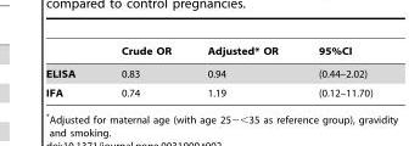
<table><thead><tr><td></td><td>Crude OR</td><td>Adjusted* OR</td><td>95%CI</td></tr></thead><tbody><tr><td>ELISA</td><td>0.83</td><td>0.94</td><td>(0.44–2.02)</td></tr><tr><td>IFA</td><td>0.74</td><td>1.19</td><td>(0.12–11.70)</td></tr></tbody></table>